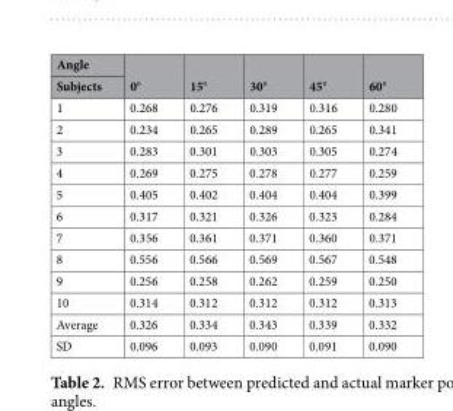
<table><thead><tr><td rowspan="2">Angle Subjects</td><td rowspan="2">0°</td><td rowspan="2">15°</td><td rowspan="2">30°</td><td rowspan="2">45°</td><td rowspan="2">60°</td></tr><tr></tr></thead><tbody><tr><td>1</td><td>0.268</td><td>0.276</td><td>0.319</td><td>0.316</td><td>0.280</td></tr><tr><td>2</td><td>0.234</td><td>0.265</td><td>0.289</td><td>0.265</td><td>0.341</td></tr><tr><td>3</td><td>0.283</td><td>0.301</td><td>0.303</td><td>0.305</td><td>0.274</td></tr><tr><td>4</td><td>0.269</td><td>0.275</td><td>0.278</td><td>0.277</td><td>0.259</td></tr><tr><td>5</td><td>0.405</td><td>0.402</td><td>0.404</td><td>0.404</td><td>0.399</td></tr><tr><td>6</td><td>0.317</td><td>0.321</td><td>0.326</td><td>0.323</td><td>0.284</td></tr><tr><td>7</td><td>0.356</td><td>0.361</td><td>0.371</td><td>0.360</td><td>0.371</td></tr><tr><td>8</td><td>0.556</td><td>0.566</td><td>0.569</td><td>0.567</td><td>0.548</td></tr><tr><td>9</td><td>0.256</td><td>0.258</td><td>0.262</td><td>0.259</td><td>0.250</td></tr><tr><td>10</td><td>0.314</td><td>0.312</td><td>0.312</td><td>0.312</td><td>0.313</td></tr><tr><td>Average</td><td>0.326</td><td>0.334</td><td>0.343</td><td>0.339</td><td>0.332</td></tr><tr><td>SD</td><td>0.096</td><td>0.093</td><td>0.090</td><td>0.091</td><td>0.090</td></tr></tbody></table>